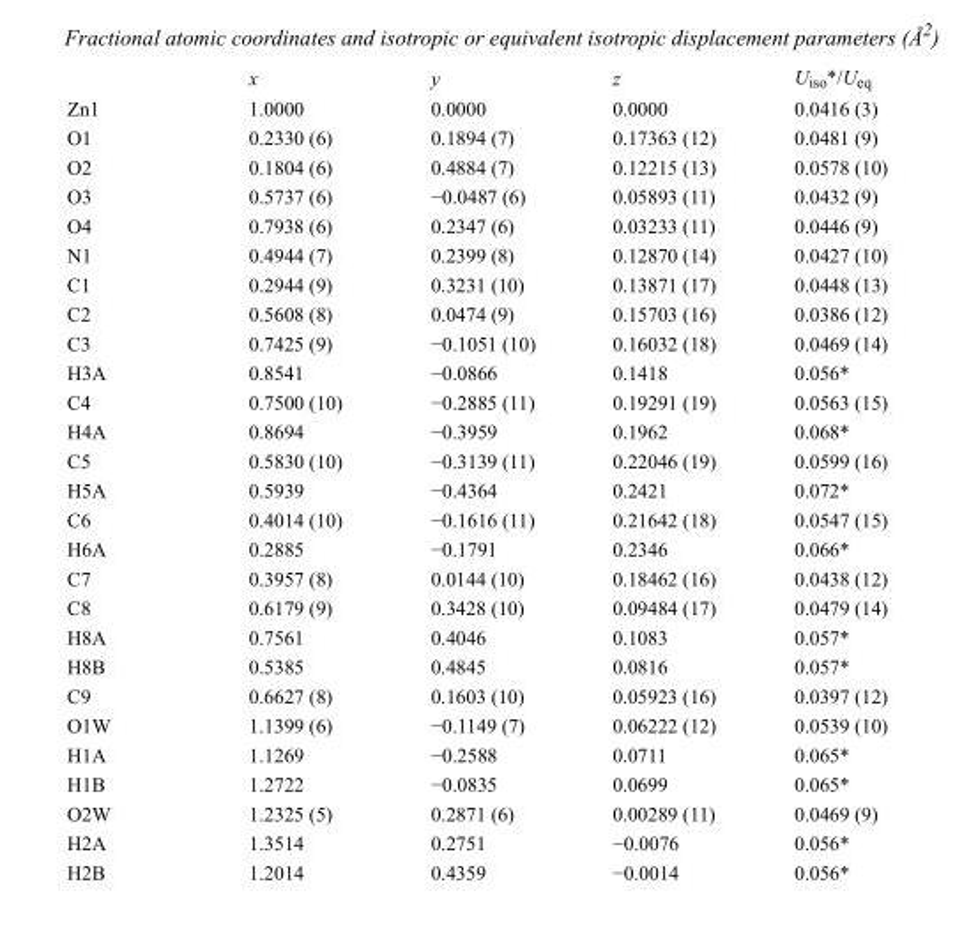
<table><thead><tr><td></td><td>x</td><td>y</td><td>z</td><td>U<sub>iso</sub>*/U<sub>eq</sub></td></tr></thead><tbody><tr><td>Zn1</td><td>1.0000</td><td>0.0000</td><td>0.0000</td><td>0.0416 (3)</td></tr><tr><td>O1</td><td>0.2330 (6)</td><td>0.1894 (7)</td><td>0.17363 (12)</td><td>0.0481 (9)</td></tr><tr><td>O2</td><td>0.1804 (6)</td><td>0.4884 (7)</td><td>0.12215 (13)</td><td>0.0578 (10)</td></tr><tr><td>O3</td><td>0.5737 (6)</td><td>−0.0487 (6)</td><td>0.05893 (11)</td><td>0.0432 (9)</td></tr><tr><td>O4</td><td>0.7938 (6)</td><td>0.2347 (6)</td><td>0.03233 (11)</td><td>0.0446 (9)</td></tr><tr><td>N1</td><td>0.4944 (7)</td><td>0.2399 (8)</td><td>0.12870 (14)</td><td>0.0427 (10)</td></tr><tr><td>C1</td><td>0.2944 (9)</td><td>0.3231 (10)</td><td>0.13871 (17)</td><td>0.0448 (13)</td></tr><tr><td>C2</td><td>0.5608 (8)</td><td>0.0474 (9)</td><td>0.15703 (16)</td><td>0.0386 (12)</td></tr><tr><td>C3</td><td>0.7425 (9)</td><td>−0.1051 (10)</td><td>0.16032 (18)</td><td>0.0469 (14)</td></tr><tr><td>H3A</td><td>0.8541</td><td>−0.0866</td><td>0.1418</td><td>0.056*</td></tr><tr><td>C4</td><td>0.7500 (10)</td><td>−0.2885 (11)</td><td>0.19291 (19)</td><td>0.0563 (15)</td></tr><tr><td>H4A</td><td>0.8694</td><td>−0.3959</td><td>0.1962</td><td>0.068*</td></tr><tr><td>C5</td><td>0.5830 (10)</td><td>−0.3139 (11)</td><td>0.22046 (19)</td><td>0.0599 (16)</td></tr><tr><td>H5A</td><td>0.5939</td><td>−0.4364</td><td>0.2421</td><td>0.072*</td></tr><tr><td>C6</td><td>0.4014 (10)</td><td>−0.1616 (11)</td><td>0.21642 (18)</td><td>0.0547 (15)</td></tr><tr><td>H6A</td><td>0.2885</td><td>−0.1791</td><td>0.2346</td><td>0.066*</td></tr><tr><td>C7</td><td>0.3957 (8)</td><td>0.0144 (10)</td><td>0.18462 (16)</td><td>0.0438 (12)</td></tr><tr><td>C8</td><td>0.6179 (9)</td><td>0.3428 (10)</td><td>0.09484 (17)</td><td>0.0479 (14)</td></tr><tr><td>H8A</td><td>0.7561</td><td>0.4046</td><td>0.1083</td><td>0.057*</td></tr><tr><td>H8B</td><td>0.5385</td><td>0.4845</td><td>0.0816</td><td>0.057*</td></tr><tr><td>C9</td><td>0.6627 (8)</td><td>0.1603 (10)</td><td>0.05923 (16)</td><td>0.0397 (12)</td></tr><tr><td>O1W</td><td>1.1399 (6)</td><td>−0.1149 (7)</td><td>0.06222 (12)</td><td>0.0539 (10)</td></tr><tr><td>H1A</td><td>1.1269</td><td>−0.2588</td><td>0.0711</td><td>0.065*</td></tr><tr><td>H1B</td><td>1.2722</td><td>−0.0835</td><td>0.0699</td><td>0.065*</td></tr><tr><td>O2W</td><td>1.2325 (5)</td><td>0.2871 (6)</td><td>0.00289 (11)</td><td>0.0469 (9)</td></tr><tr><td>H2A</td><td>1.3514</td><td>0.2751</td><td>−0.0076</td><td>0.056*</td></tr><tr><td>H2B</td><td>1.2014</td><td>0.4359</td><td>−0.0014</td><td>0.056*</td></tr></tbody></table>